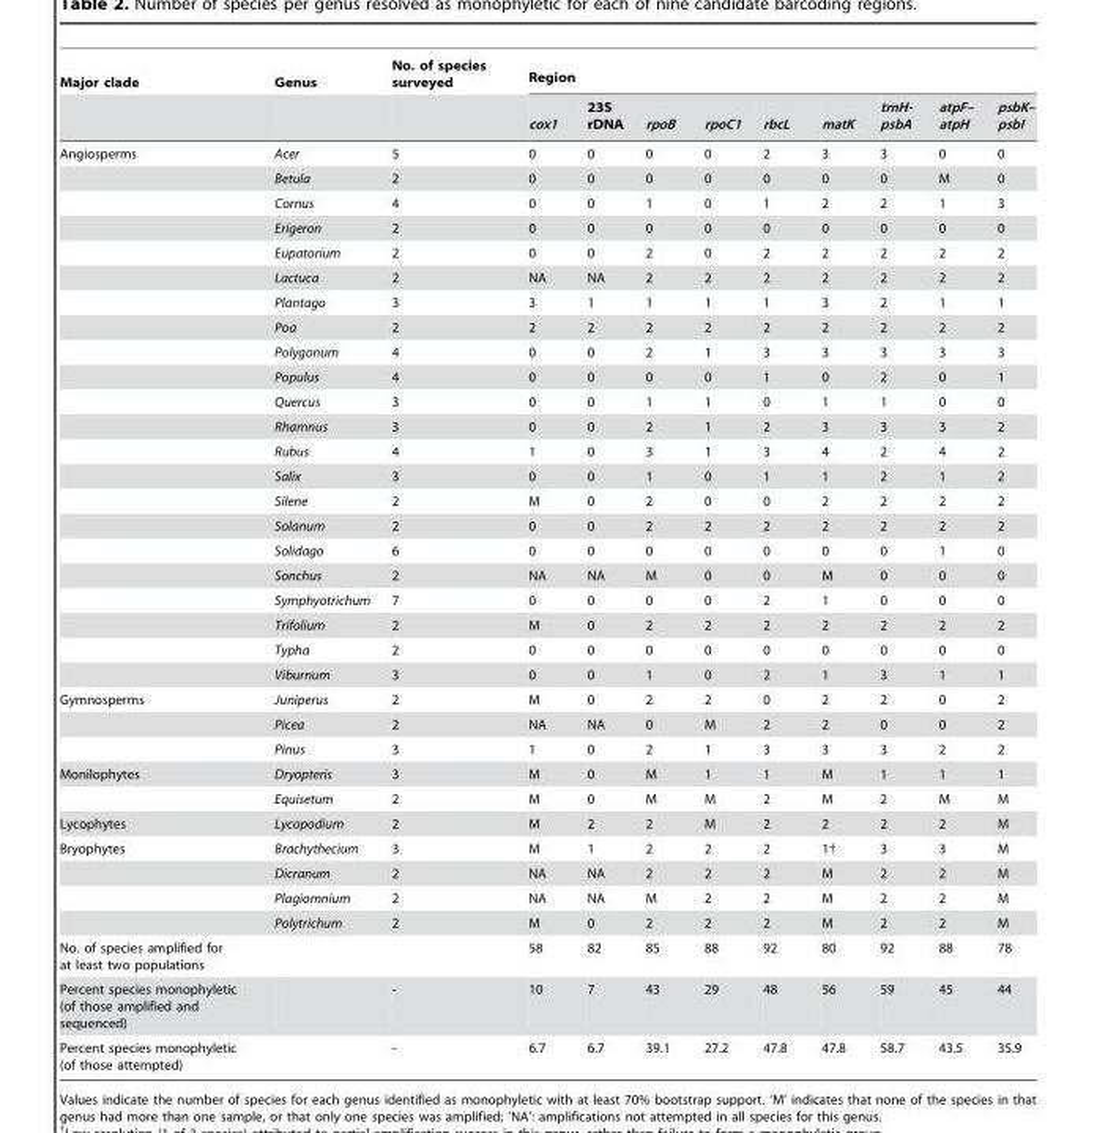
<table><thead><tr><td rowspan="2">Major clade</td><td rowspan="2">Genus</td><td rowspan="2">No. of species surveyed</td><td colspan="9">Region</td></tr><tr><td>cox1</td><td>23S rDNA</td><td>rpoB</td><td>rpoC1</td><td>rbcL</td><td>matK</td><td>trnH- psbA</td><td>atpF– atpH</td><td>psbK– psbI</td></tr></thead><tbody><tr><td rowspan="22">Angiosperms</td><td>Acer</td><td>5</td><td>0</td><td>0</td><td>0</td><td>0</td><td>2</td><td>3</td><td>3</td><td>0</td><td>0</td></tr><tr><td>Betula</td><td>2</td><td>0</td><td>0</td><td>0</td><td>0</td><td>0</td><td>0</td><td>0</td><td>M</td><td>0</td></tr><tr><td>Cornus</td><td>4</td><td>0</td><td>0</td><td>1</td><td>0</td><td>1</td><td>2</td><td>2</td><td>1</td><td>3</td></tr><tr><td>Erigeron</td><td>2</td><td>0</td><td>0</td><td>0</td><td>0</td><td>0</td><td>0</td><td>0</td><td>0</td><td>0</td></tr><tr><td>Eupatorium</td><td>2</td><td>0</td><td>0</td><td>2</td><td>0</td><td>2</td><td>2</td><td>2</td><td>2</td><td>2</td></tr><tr><td>Lactuca</td><td>2</td><td>NA</td><td>NA</td><td>2</td><td>2</td><td>2</td><td>2</td><td>2</td><td>2</td><td>2</td></tr><tr><td>Plantago</td><td>3</td><td>3</td><td>1</td><td>1</td><td>1</td><td>1</td><td>3</td><td>2</td><td>1</td><td>1</td></tr><tr><td>Poa</td><td>2</td><td>2</td><td>2</td><td>2</td><td>2</td><td>2</td><td>2</td><td>2</td><td>2</td><td>2</td></tr><tr><td>Polygonum</td><td>4</td><td>0</td><td>0</td><td>2</td><td>1</td><td>3</td><td>3</td><td>3</td><td>3</td><td>3</td></tr><tr><td>Populus</td><td>4</td><td>0</td><td>0</td><td>0</td><td>0</td><td>1</td><td>0</td><td>2</td><td>0</td><td>1</td></tr><tr><td>Quercus</td><td>3</td><td>0</td><td>0</td><td>1</td><td>1</td><td>0</td><td>1</td><td>1</td><td>0</td><td>0</td></tr><tr><td>Rhamnus</td><td>3</td><td>0</td><td>0</td><td>2</td><td>1</td><td>2</td><td>3</td><td>3</td><td>3</td><td>2</td></tr><tr><td>Rubus</td><td>4</td><td>1</td><td>0</td><td>3</td><td>1</td><td>3</td><td>4</td><td>2</td><td>4</td><td>2</td></tr><tr><td>Salix</td><td>3</td><td>0</td><td>0</td><td>1</td><td>0</td><td>1</td><td>1</td><td>2</td><td>1</td><td>2</td></tr><tr><td>Silene</td><td>2</td><td>M</td><td>0</td><td>2</td><td>0</td><td>0</td><td>2</td><td>2</td><td>2</td><td>2</td></tr><tr><td>Solanum</td><td>2</td><td>0</td><td>0</td><td>2</td><td>2</td><td>2</td><td>2</td><td>2</td><td>2</td><td>2</td></tr><tr><td>Solidago</td><td>6</td><td>0</td><td>0</td><td>0</td><td>0</td><td>0</td><td>0</td><td>0</td><td>1</td><td>0</td></tr><tr><td>Sonchus</td><td>2</td><td>NA</td><td>NA</td><td>M</td><td>0</td><td>0</td><td>M</td><td>0</td><td>0</td><td>0</td></tr><tr><td>Symphyotrichum</td><td>7</td><td>0</td><td>0</td><td>0</td><td>0</td><td>2</td><td>1</td><td>0</td><td>0</td><td>0</td></tr><tr><td>Trifolium</td><td>2</td><td>M</td><td>0</td><td>2</td><td>2</td><td>2</td><td>2</td><td>2</td><td>2</td><td>2</td></tr><tr><td>Typha</td><td>2</td><td>0</td><td>0</td><td>0</td><td>0</td><td>0</td><td>0</td><td>0</td><td>0</td><td>0</td></tr><tr><td>Viburnum</td><td>3</td><td>0</td><td>0</td><td>1</td><td>0</td><td>2</td><td>1</td><td>3</td><td>1</td><td>1</td></tr><tr><td rowspan="3">Gymnosperms</td><td>Juniperus</td><td>2</td><td>M</td><td>0</td><td>2</td><td>2</td><td>0</td><td>2</td><td>2</td><td>0</td><td>2</td></tr><tr><td>Picea</td><td>2</td><td>NA</td><td>NA</td><td>0</td><td>M</td><td>2</td><td>2</td><td>0</td><td>0</td><td>2</td></tr><tr><td>Pinus</td><td>3</td><td>1</td><td>0</td><td>2</td><td>1</td><td>3</td><td>3</td><td>3</td><td>2</td><td>2</td></tr><tr><td rowspan="2">Monilophytes</td><td>Dryopteris</td><td>3</td><td>M</td><td>0</td><td>M</td><td>1</td><td>1</td><td>M</td><td>1</td><td>1</td><td>1</td></tr><tr><td>Equisetum</td><td>2</td><td>M</td><td>0</td><td>M</td><td>M</td><td>2</td><td>M</td><td>2</td><td>M</td><td>M</td></tr><tr><td>Lycophytes</td><td>Lycopodium</td><td>2</td><td>M</td><td>2</td><td>2</td><td>M</td><td>2</td><td>2</td><td>2</td><td>2</td><td>M</td></tr><tr><td rowspan="4">Bryophytes</td><td>Brachythecium</td><td>3</td><td>M</td><td>1</td><td>2</td><td>2</td><td>2</td><td>1†</td><td>3</td><td>3</td><td>M</td></tr><tr><td>Dicranum</td><td>2</td><td>NA</td><td>NA</td><td>2</td><td>2</td><td>2</td><td>M</td><td>2</td><td>2</td><td>M</td></tr><tr><td>Plagiomnium</td><td>2</td><td>NA</td><td>NA</td><td>M</td><td>2</td><td>2</td><td>M</td><td>2</td><td>2</td><td>M</td></tr><tr><td>Polytrichum</td><td>2</td><td>M</td><td>0</td><td>2</td><td>2</td><td>2</td><td>M</td><td>2</td><td>2</td><td>M</td></tr><tr><td>No. of species amplified for at least two populations</td><td></td><td></td><td>58</td><td>82</td><td>85</td><td>88</td><td>92</td><td>80</td><td>92</td><td>88</td><td>78</td></tr><tr><td>Percent species monophyletic (of those amplified and sequenced)</td><td></td><td>-</td><td>10</td><td>7</td><td>43</td><td>29</td><td>48</td><td>56</td><td>59</td><td>45</td><td>44</td></tr><tr><td>Percent species monophyletic (of those attempted)</td><td></td><td>-</td><td>6.7</td><td>6.7</td><td>39.1</td><td>27.2</td><td>47.8</td><td>47.8</td><td>58.7</td><td>43.5</td><td>35.9</td></tr></tbody></table>